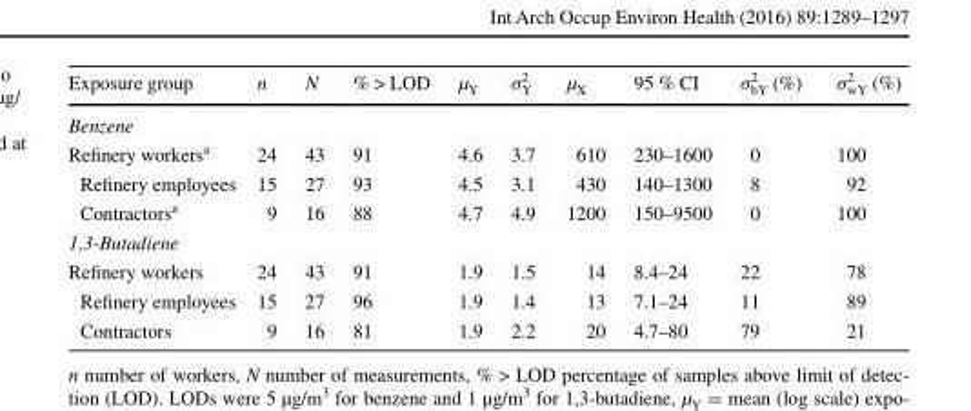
<table><thead><tr><td>Exposure group</td><td>n</td><td>N</td><td>% &gt; LOD</td><td>µ<sub>Y</sub></td><td>σ<sub>Y</sub> <sup>2</sup></td><td>µ<sub>X</sub></td><td>95 % CI</td><td>σ2 bY (%)</td><td>σ2 wY (%)</td></tr></thead><tbody><tr><td colspan="10">Benzene</td></tr><tr><td>Refinery workers<sup>a</sup></td><td>24</td><td>43</td><td>91</td><td>4.6</td><td>3.7</td><td>610</td><td>230–1600</td><td>0</td><td>100</td></tr><tr><td>Refinery employees</td><td>15</td><td>27</td><td>93</td><td>4.5</td><td>3.1</td><td>430</td><td>140–1300</td><td>8</td><td>92</td></tr><tr><td>Contractors<sup>a</sup></td><td>9</td><td>16</td><td>88</td><td>4.7</td><td>4.9</td><td>1200</td><td>150–9500</td><td>0</td><td>100</td></tr><tr><td colspan="10">1,3-Butadiene</td></tr><tr><td>Refinery workers</td><td>24</td><td>43</td><td>91</td><td>1.9</td><td>1.5</td><td>14</td><td>8.4–24</td><td>22</td><td>78</td></tr><tr><td>Refinery employees</td><td>15</td><td>27</td><td>96</td><td>1.9</td><td>1.4</td><td>13</td><td>7.1–24</td><td>11</td><td>89</td></tr><tr><td>Contractors</td><td>9</td><td>16</td><td>81</td><td>1.9</td><td>2.2</td><td>20</td><td>4.7–80</td><td>79</td><td>21</td></tr></tbody></table>